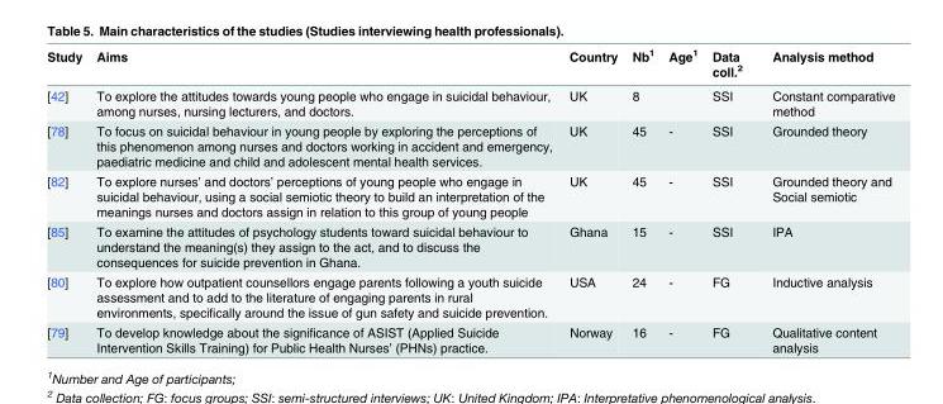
<table><thead><tr><td>Study</td><td>Aims</td><td>Country</td><td>Nb<sup>1</sup></td><td>Age<sup>1</sup></td><td>Data coll.<sup>2</sup></td><td>Analysis method</td></tr></thead><tbody><tr><td>[42]</td><td>To explore the attitudes towards young people who engage in suicidal behaviour, among nurses, nursing lecturers, and doctors.</td><td>UK</td><td>8</td><td></td><td>SSI</td><td>Constant comparative method</td></tr><tr><td>[78]</td><td>To focus on suicidal behaviour in young people by exploring the perceptions of this phenomenon among nurses and doctors working in accident and emergency, paediatric medicine and child and adolescent mental health services.</td><td>UK</td><td>45</td><td>-</td><td>SSI</td><td>Grounded theory</td></tr><tr><td>[82]</td><td>To explore nurses’ and doctors’ perceptions of young people who engage in suicidal behaviour, using a social semiotic theory to build an interpretation of the meanings nurses and doctors assign in relation to this group of young people</td><td>UK</td><td>45</td><td>-</td><td>SSI</td><td>Grounded theory and Social semiotic</td></tr><tr><td>[85]</td><td>To examine the attitudes of psychology students toward suicidal behaviour to understand the meaning(s) they assign to the act, and to discuss the consequences for suicide prevention in Ghana.</td><td>Ghana</td><td>15</td><td>-</td><td>SSI</td><td>IPA</td></tr><tr><td>[80]</td><td>To explore how outpatient counsellors engage parents following a youth suicide assessment and to add to the literature of engaging parents in rural environments, specifically around the issue of gun safety and suicide prevention.</td><td>USA</td><td>24</td><td>-</td><td>FG</td><td>Inductive analysis</td></tr><tr><td>[79]</td><td>To develop knowledge about the significance of ASIST (Applied Suicide Intervention Skills Training) for Public Health Nurses’ (PHNs) practice.</td><td>Norway</td><td>16</td><td>-</td><td>FG</td><td>Qualitative content analysis</td></tr></tbody></table>